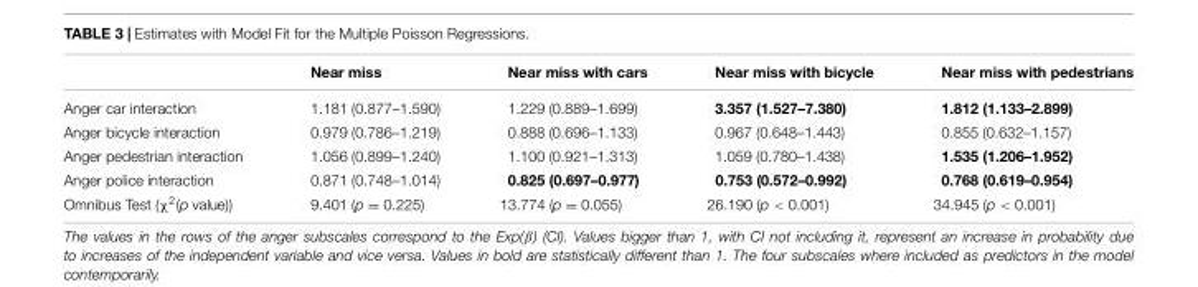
<table><thead><tr><td></td><td>Near miss</td><td>Near miss with cars</td><td>Near miss with bicycle</td><td>Near miss with pedestrians</td></tr></thead><tbody><tr><td>Anger car interaction</td><td>1.181 (0.877–1.590)</td><td>1.229 (0.889–1.699)</td><td>3.357 (1.527–7.380)</td><td>1.812 (1.133–2.899)</td></tr><tr><td>Anger bicycle interaction</td><td>0.979 (0.786–1.219)</td><td>0.888 (0.696–1.133)</td><td>0.967 (0.648–1.443)</td><td>0.855 (0.632–1.157)</td></tr><tr><td>Anger pedestrian interaction</td><td>1.056 (0.899–1.240)</td><td>1.100 (0.921–1.313)</td><td>1.059 (0.780–1.438)</td><td>1.535 (1.206–1.952)</td></tr><tr><td>Anger police interaction</td><td>0.871 (0.748–1.014)</td><td>0.825 (0.697–0.977)</td><td>0.753 (0.572–0.992)</td><td>0.768 (0.619–0.954)</td></tr><tr><td>Omnibus Test (χ<sup>2</sup>(p value))</td><td>9.401 (p = 0.225)</td><td>13.774 (p = 0.055)</td><td>26.190 (p &lt; 0.001)</td><td>34.945 (p &lt; 0.001)</td></tr></tbody></table>